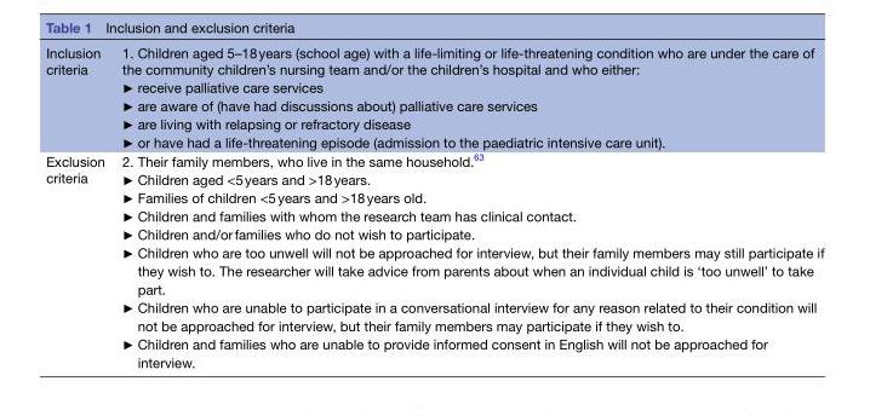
<table><tbody><tr><td>Inclusion criteria</td><td>1. Children aged 5–18 years (school age) with a life-limiting or life-threatening condition who are under the care of the community children’s nursing team and/or the children’s hospital and who either: ► receive palliative care services ► are aware of (have had discussions about) palliative care services ► are living with relapsing or refractory disease ► or have had a life-threatening episode (admission to the paediatric intensive care unit).</td></tr><tr><td>Exclusion criteria</td><td>2. Their family members, who live in the same household.63 ► Children aged &lt;5 years and &gt;18 years. ► Families of children &lt;5 years and &gt;18 years old. ► Children and families with whom the research team has clinical contact. ► Children and/or families who do not wish to participate. ► Children who are too unwell will not be approached for interview, but their family members may still participate if they wish to. The researcher will take advice from parents about when an individual child is ‘too unwell’ to take part. ► Children who are unable to participate in a conversational interview for any reason related to their condition will not be approached for interview, but their family members may participate if they wish to. ► Children and families who are unable to provide informed consent in English will not be approached for interview.</td></tr></tbody></table>